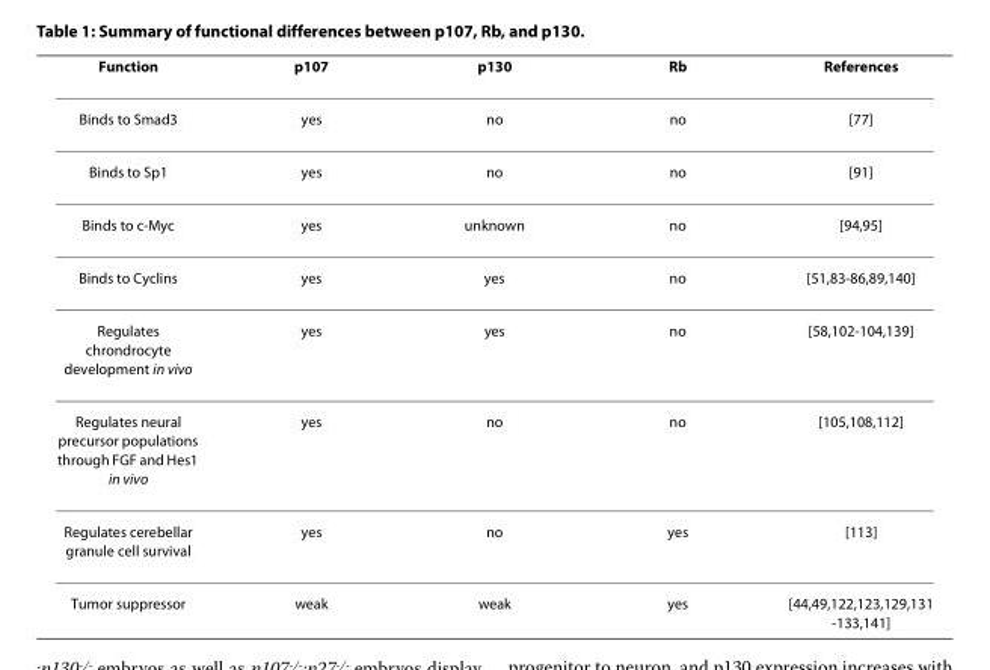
<table><thead><tr><td>Function</td><td>p107</td><td>p130</td><td>Rb</td><td>References</td></tr></thead><tbody><tr><td>Binds to Smad3</td><td>yes</td><td>no</td><td>no</td><td>[77]</td></tr><tr><td>Binds to Sp1</td><td>yes</td><td>no</td><td>no</td><td>[91]</td></tr><tr><td>Binds to c-Myc</td><td>yes</td><td>unknown</td><td>no</td><td>[94,95]</td></tr><tr><td>Binds to Cyclins</td><td>yes</td><td>yes</td><td>no</td><td>[51,83-86,89,140]</td></tr><tr><td>Regulates chrondrocyte development in vivo</td><td>yes</td><td>yes</td><td>no</td><td>[58,102-104,139]</td></tr><tr><td>Regulates neural precursor populations through FGF and Hes1 in vivo</td><td>yes</td><td>no</td><td>no</td><td>[105,108,112]</td></tr><tr><td>Regulates cerebellar granule cell survival</td><td>yes</td><td>no</td><td>yes</td><td>[113]</td></tr><tr><td>Tumor suppressor</td><td>weak</td><td>weak</td><td>yes</td><td>[44,49,122,123,129,131</td></tr></tbody></table>